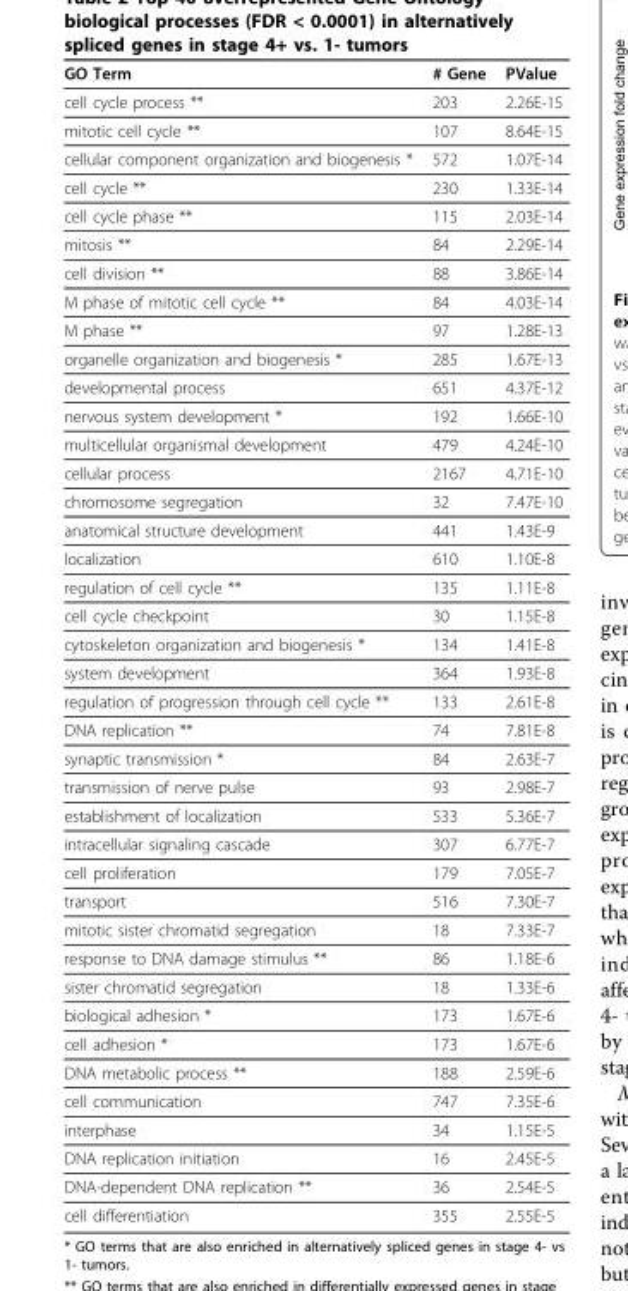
<table><thead><tr><td>GO Term</td><td># Gene</td><td>PValue</td></tr></thead><tbody><tr><td>cell cycle process **</td><td>203</td><td>2.26E-15</td></tr><tr><td>mitotic cell cycle **</td><td>107</td><td>8.64E-15</td></tr><tr><td>cellular component organization and biogenesis *</td><td>572</td><td>1.07E-14</td></tr><tr><td>cell cycle **</td><td>230</td><td>1.33E-14</td></tr><tr><td>cell cycle phase **</td><td>115</td><td>2.03E-14</td></tr><tr><td>mitosis **</td><td>84</td><td>2.29E-14</td></tr><tr><td>cell division **</td><td>88</td><td>3.86E-14</td></tr><tr><td>M phase of mitotic cell cycle **</td><td>84</td><td>4.03E-14</td></tr><tr><td>M phase **</td><td>97</td><td>1.28E-13</td></tr><tr><td>organelle organization and biogenesis *</td><td>285</td><td>1.67E-13</td></tr><tr><td>developmental process</td><td>651</td><td>4.37E-12</td></tr><tr><td>nervous system development *</td><td>192</td><td>1.66E-10</td></tr><tr><td>multicellular organismal development</td><td>479</td><td>4.24E-10</td></tr><tr><td>cellular process</td><td>2167</td><td>4.71E-10</td></tr><tr><td>chromosome segregation</td><td>32</td><td>7.47E-10</td></tr><tr><td>anatomical structure development</td><td>441</td><td>1.43E-9</td></tr><tr><td>localization</td><td>610</td><td>1.10E-8</td></tr><tr><td>regulation of cell cycle **</td><td>135</td><td>1.11E-8</td></tr><tr><td>cell cycle checkpoint</td><td>30</td><td>1.15E-8</td></tr><tr><td>cytoskeleton organization and biogenesis *</td><td>134</td><td>1.41E-8</td></tr><tr><td>system development</td><td>364</td><td>1.93E-8</td></tr><tr><td>regulation of progression through cell cycle **</td><td>133</td><td>2.61E-8</td></tr><tr><td>DNA replication **</td><td>74</td><td>7.81E-8</td></tr><tr><td>synaptic transmission *</td><td>84</td><td>2.63E-7</td></tr><tr><td>transmission of nerve pulse</td><td>93</td><td>2.98E-7</td></tr><tr><td>establishment of localization</td><td>533</td><td>5.36E-7</td></tr><tr><td>intracellular signaling cascade</td><td>307</td><td>6.77E-7</td></tr><tr><td>cell proliferation</td><td>179</td><td>7.05E-7</td></tr><tr><td>transport</td><td>516</td><td>7.30E-7</td></tr><tr><td>mitotic sister chromatid segregation</td><td>18</td><td>7.33E-7</td></tr><tr><td>response to DNA damage stimulus **</td><td>86</td><td>1.18E-6</td></tr><tr><td>sister chromatid segregation</td><td>18</td><td>1.33E-6</td></tr><tr><td>biological adhesion *</td><td>173</td><td>1.67E-6</td></tr><tr><td>cell adhesion *</td><td>173</td><td>1.67E-6</td></tr><tr><td>DNA metabolic process **</td><td>188</td><td>2.59E-6</td></tr><tr><td>cell communication</td><td>747</td><td>7.35E-6</td></tr><tr><td>interphase</td><td>34</td><td>1.15E-5</td></tr><tr><td>DNA replication initiation</td><td>16</td><td>2.45E-5</td></tr><tr><td>DNA-dependent DNA replication **</td><td>36</td><td>2.54E-5</td></tr><tr><td>cell differentiation</td><td>355</td><td>2.55E-5</td></tr></tbody></table>